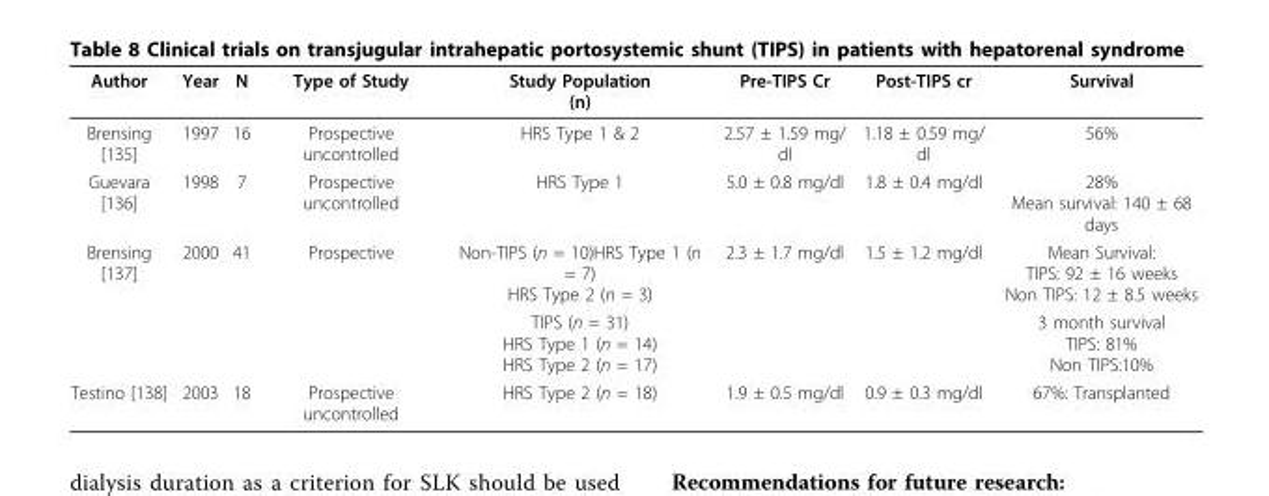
<table><thead><tr><td>Author</td><td>Year</td><td>N</td><td>Type of Study</td><td>Study Population (n)</td><td>Pre-TIPS Cr</td><td>Post-TIPS cr</td><td>Survival</td></tr></thead><tbody><tr><td>Brensing [135]</td><td>1997</td><td>16</td><td>Prospective uncontrolled</td><td>HRS Type 1 &amp; 2</td><td>2.57 ± 1.59 mg/ dl</td><td>1.18 ± 0.59 mg/ dl</td><td>56%</td></tr><tr><td>Guevara [136]</td><td>1998</td><td>7</td><td>Prospective uncontrolled</td><td>HRS Type 1</td><td>5.0 ± 0.8 mg/dl</td><td>1.8 ± 0.4 mg/dl</td><td>28% Mean survival: 140 ± 68 days</td></tr><tr><td rowspan="2">Brensing [137]</td><td>2000</td><td>41</td><td>Prospective</td><td>Non-TIPS (n = 10)HRS Type 1 (n = 7) HRS Type 2 (n = 3)</td><td>2.3 ± 1.7 mg/dl</td><td>1.5 ± 1.2 mg/dl</td><td>Mean Survival: TIPS: 92 ± 16 weeks Non TIPS: 12 ± 8.5 weeks</td></tr><tr><td></td><td></td><td></td><td>TIPS (n = 31) HRS Type 1 (n = 14) HRS Type 2 (n = 17)</td><td></td><td></td><td>3 month survival TIPS: 81% Non TIPS:10%</td></tr><tr><td>Testino [138]</td><td>2003</td><td>18</td><td>Prospective uncontrolled</td><td>HRS Type 2 (n = 18)</td><td>1.9 ± 0.5 mg/dl</td><td>0.9 ± 0.3 mg/dl</td><td>67%: Transplanted</td></tr></tbody></table>